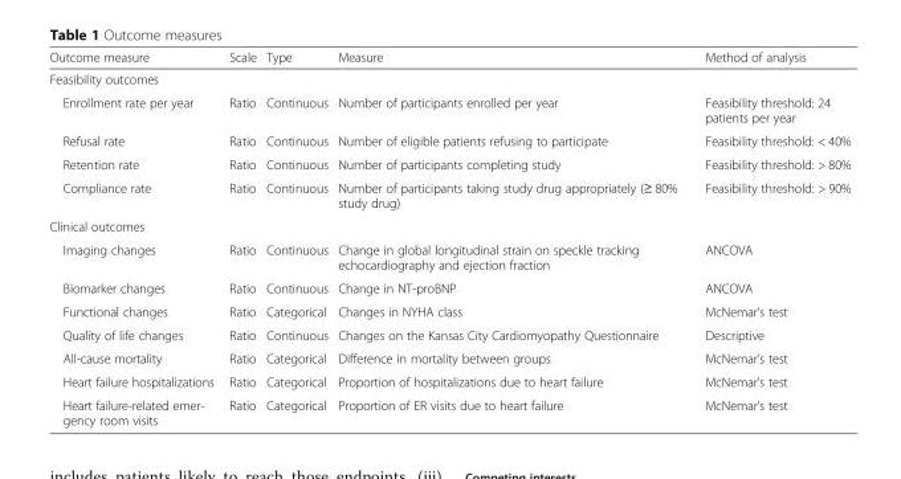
<table><thead><tr><td>Outcome measure</td><td>Scale</td><td>Type</td><td>Measure</td><td>Method of analysis</td></tr></thead><tbody><tr><td colspan="5">Feasibility outcomes</td></tr><tr><td>Enrollment rate per year</td><td>Ratio</td><td>Continuous</td><td>Number of participants enrolled per year</td><td>Feasibility threshold: 24 patients per year</td></tr><tr><td>Refusal rate</td><td>Ratio</td><td>Continuous</td><td>Number of eligible patients refusing to participate</td><td>Feasibility threshold: &lt; 40%</td></tr><tr><td>Retention rate</td><td>Ratio</td><td>Continuous</td><td>Number of participants completing study</td><td>Feasibility threshold: &gt; 80%</td></tr><tr><td>Compliance rate</td><td>Ratio</td><td>Continuous</td><td>Number of participants taking study drug appropriately (≥ 80% study drug)</td><td>Feasibility threshold: &gt; 90%</td></tr><tr><td colspan="5">Clinical outcomes</td></tr><tr><td>Imaging changes</td><td>Ratio</td><td>Continuous</td><td>Change in global longitudinal strain on speckle tracking echocardiography and ejection fraction</td><td>ANCOVA</td></tr><tr><td>Biomarker changes</td><td>Ratio</td><td>Continuous</td><td>Change in NT-proBNP</td><td>ANCOVA</td></tr><tr><td>Functional changes</td><td>Ratio</td><td>Categorical</td><td>Changes in NYHA class</td><td>McNemar’s test</td></tr><tr><td>Quality of life changes</td><td>Ratio</td><td>Continuous</td><td>Changes on the Kansas City Cardiomyopathy Questionnaire</td><td>Descriptive</td></tr><tr><td>All-cause mortality</td><td>Ratio</td><td>Categorical</td><td>Difference in mortality between groups</td><td>McNemar’s test</td></tr><tr><td>Heart failure hospitalizations</td><td>Ratio</td><td>Categorical</td><td>Proportion of hospitalizations due to heart failure</td><td>McNemar’s test</td></tr><tr><td>Heart failure-related emer- gency room visits</td><td>Ratio</td><td>Categorical</td><td>Proportion of ER visits due to heart failure</td><td>McNemar’s test</td></tr></tbody></table>